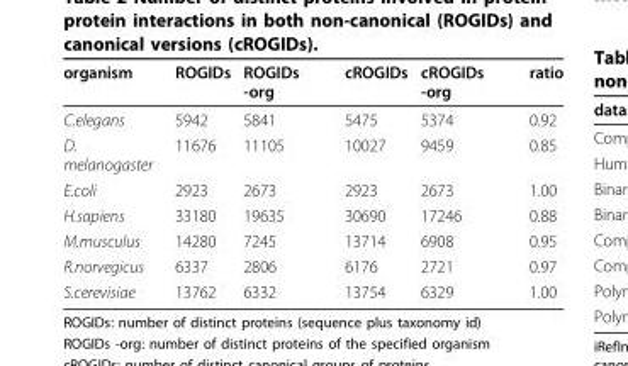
<table><thead><tr><td>organism</td><td>ROGIDs</td><td>ROGIDs -org</td><td>cROGIDs</td><td>cROGIDs -org</td><td>ratio</td></tr></thead><tbody><tr><td>C.elegans</td><td>5942</td><td>5841</td><td>5475</td><td>5374</td><td>0.92</td></tr><tr><td>D. melanogaster</td><td>11676</td><td>11105</td><td>10027</td><td>9459</td><td>0.85</td></tr><tr><td>E.coli</td><td>2923</td><td>2673</td><td>2923</td><td>2673</td><td>1.00</td></tr><tr><td>H.sapiens</td><td>33180</td><td>19635</td><td>30690</td><td>17246</td><td>0.88</td></tr><tr><td>M.musculus</td><td>14280</td><td>7245</td><td>13714</td><td>6908</td><td>0.95</td></tr><tr><td>R.norvegicus</td><td>6337</td><td>2806</td><td>6176</td><td>2721</td><td>0.97</td></tr><tr><td>S.cerevisiae</td><td>13762</td><td>6332</td><td>13754</td><td>6329</td><td>1.00</td></tr></tbody></table>